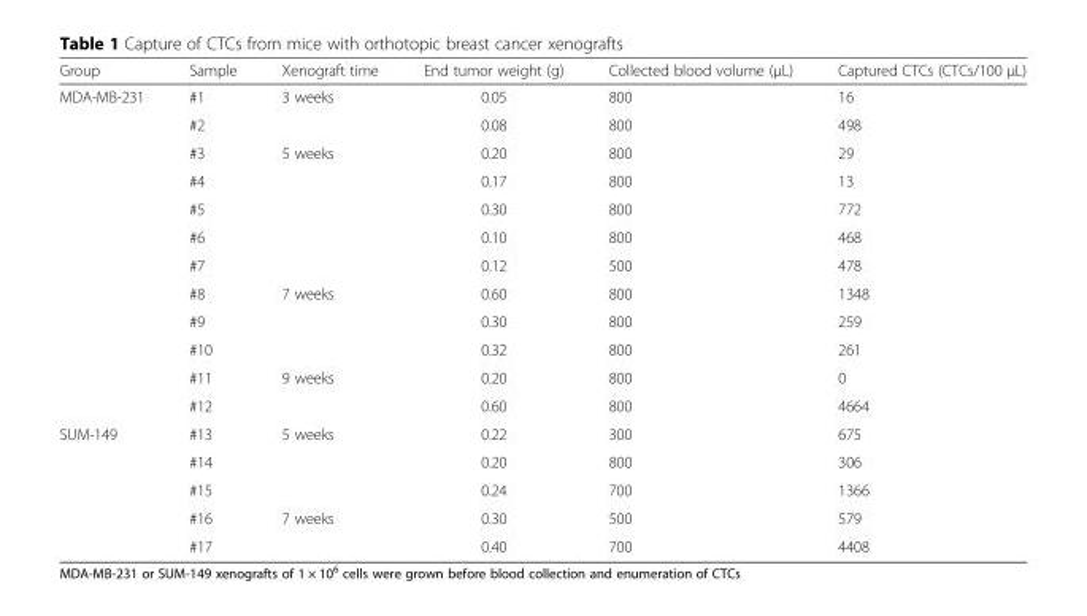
<table><thead><tr><td>Group</td><td>Sample</td><td>Xenograft time</td><td>End tumor weight (g)</td><td>Collected blood volume (μL)</td><td>Captured CTCs (CTCs/100 μL)</td></tr></thead><tbody><tr><td rowspan="12">MDA-MB-231</td><td>#1</td><td rowspan="2">3 weeks</td><td>0.05</td><td>800</td><td>16</td></tr><tr><td>#2</td><td>0.08</td><td>800</td><td>498</td></tr><tr><td>#3</td><td rowspan="5">5 weeks</td><td>0.20</td><td>800</td><td>29</td></tr><tr><td>#4</td><td>0.17</td><td>800</td><td>13</td></tr><tr><td>#5</td><td>0.30</td><td>800</td><td>772</td></tr><tr><td>#6</td><td>0.10</td><td>800</td><td>468</td></tr><tr><td>#7</td><td>0.12</td><td>500</td><td>478</td></tr><tr><td>#8</td><td rowspan="3">7 weeks</td><td>0.60</td><td>800</td><td>1348</td></tr><tr><td>#9</td><td>0.30</td><td>800</td><td>259</td></tr><tr><td>#10</td><td>0.32</td><td>800</td><td>261</td></tr><tr><td>#11</td><td rowspan="2">9 weeks</td><td>0.20</td><td>800</td><td>0</td></tr><tr><td>#12</td><td>0.60</td><td>800</td><td>4664</td></tr><tr><td rowspan="5">SUM-149</td><td>#13</td><td rowspan="3">5 weeks</td><td>0.22</td><td>300</td><td>675</td></tr><tr><td>#14</td><td>0.20</td><td>800</td><td>306</td></tr><tr><td>#15</td><td>0.24</td><td>700</td><td>1366</td></tr><tr><td>#16</td><td rowspan="2">7 weeks</td><td>0.30</td><td>500</td><td>579</td></tr><tr><td>#17</td><td>0.40</td><td>700</td><td>4408</td></tr></tbody></table>